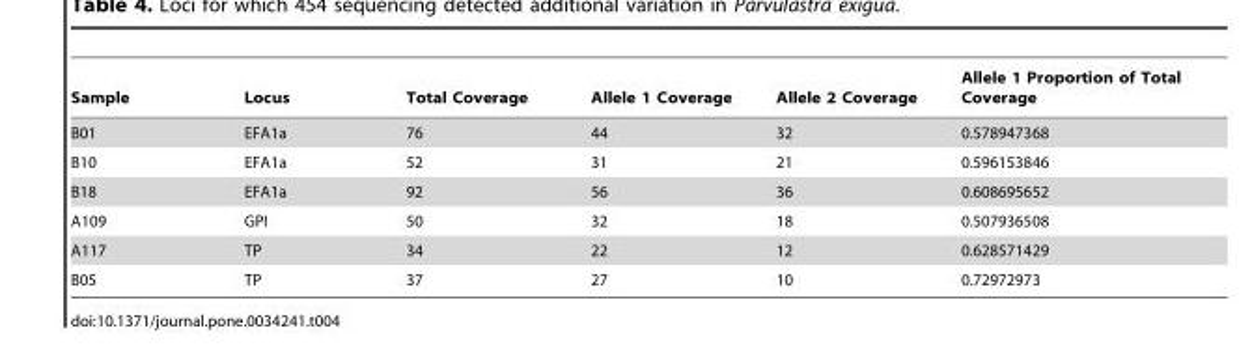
<table><thead><tr><td>Sample</td><td>Locus</td><td>Total Coverage</td><td>Allele 1 Coverage</td><td>Allele 2 Coverage</td><td>Allele 1 Proportion of Total Coverage</td></tr></thead><tbody><tr><td>B01</td><td>EFA1a</td><td>76</td><td>44</td><td>32</td><td>0.578947368</td></tr><tr><td>B10</td><td>EFA1a</td><td>52</td><td>31</td><td>21</td><td>0.596153846</td></tr><tr><td>B18</td><td>EFA1a</td><td>92</td><td>56</td><td>36</td><td>0.608695652</td></tr><tr><td>A109</td><td>GPI</td><td>50</td><td>32</td><td>18</td><td>0.507936508</td></tr><tr><td>A117</td><td>TP</td><td>34</td><td>22</td><td>12</td><td>0.628571429</td></tr><tr><td>B05</td><td>TP</td><td>37</td><td>27</td><td>10</td><td>0.72972973</td></tr></tbody></table>